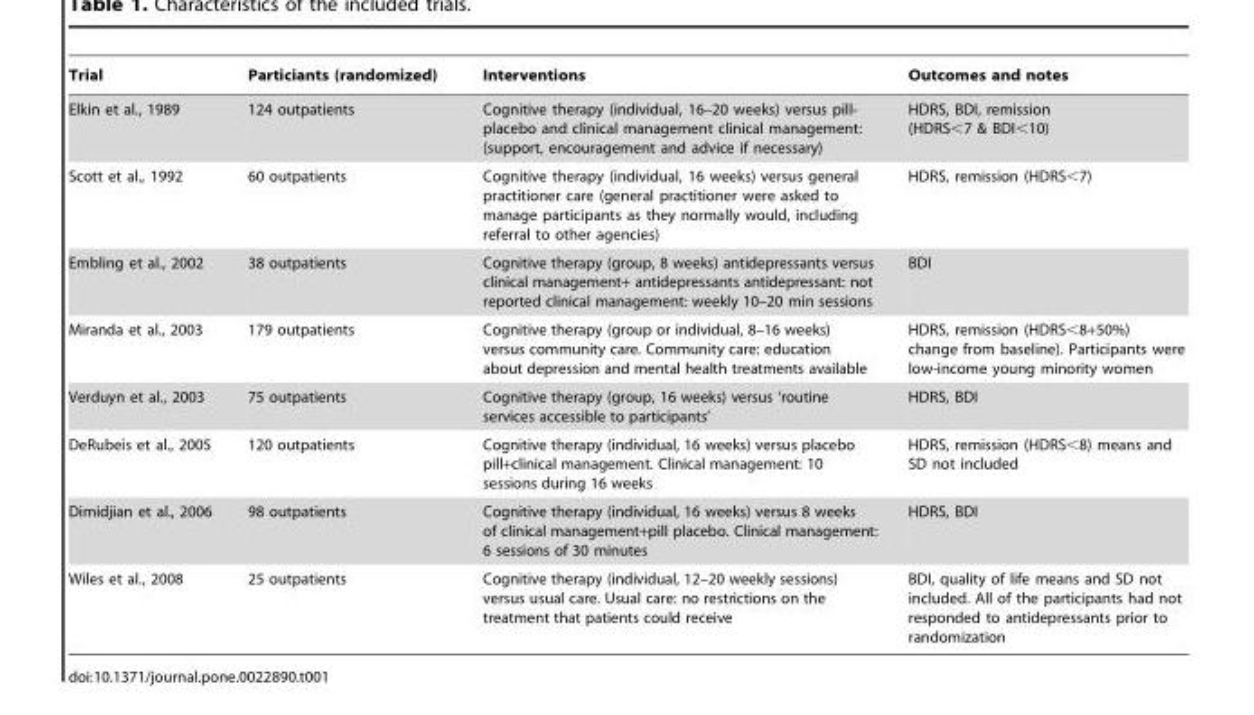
<table><thead><tr><td>Trial</td><td>Particiants (randomized)</td><td>Interventions</td><td>Outcomes and notes</td></tr></thead><tbody><tr><td>Elkin et al., 1989</td><td>124 outpatients</td><td>Cognitive therapy (individual, 16–20 weeks) versus pill- placebo and clinical management clinical management: (support, encouragement and advice if necessary)</td><td>HDRS, BDI, remission (HDRS&lt;7 &amp; BDI&lt;10)</td></tr><tr><td>Scott et al., 1992</td><td>60 outpatients</td><td>Cognitive therapy (individual, 16 weeks) versus general practitioner care (general practitioner were asked to manage participants as they normally would, including referral to other agencies)</td><td>HDRS, remission (HDRS&lt;7)</td></tr><tr><td>Embling et al., 2002</td><td>38 outpatients</td><td>Cognitive therapy (group, 8 weeks) antidepressants versus clinical management+ antidepressants antidepressant: not reported clinical management: weekly 10–20 min sessions</td><td>BDI</td></tr><tr><td>Miranda et al., 2003</td><td>179 outpatients</td><td>Cognitive therapy (group or individual, 8–16 weeks) versus community care. Community care: education about depression and mental health treatments available</td><td>HDRS, remission (HDRS&lt;8+50%) change from baseline). Participants were low-income young minority women</td></tr><tr><td>Verduyn et al., 2003</td><td>75 outpatients</td><td>Cognitive therapy (group, 16 weeks) versus ‘routine services accessible to participants’</td><td>HDRS, BDI</td></tr><tr><td>DeRubeis et al., 2005</td><td>120 outpatients</td><td>Cognitive therapy (individual, 16 weeks) versus placebo pill+clinical management. Clinical management: 10 sessions during 16 weeks</td><td>HDRS, remission (HDRS&lt;8) means and SD not included</td></tr><tr><td>Dimidjian et al., 2006</td><td>98 outpatients</td><td>Cognitive therapy (individual, 16 weeks) versus 8 weeks of clinical management+pill placebo. Clinical management: 6 sessions of 30 minutes</td><td>HDRS, BDI</td></tr><tr><td>Wiles et al., 2008</td><td>25 outpatients</td><td>Cognitive therapy (individual, 12–20 weekly sessions) versus usual care. Usual care: no restrictions on the treatment that patients could receive</td><td>BDI, quality of life means and SD not included. All of the participants had not responded to antidepressants prior to randomization</td></tr></tbody></table>